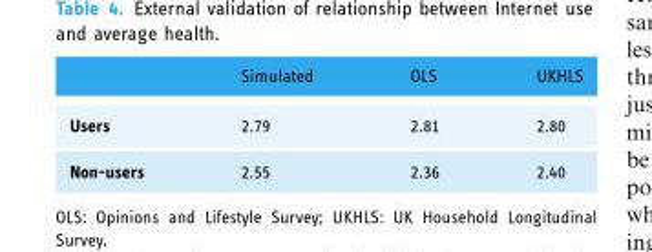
<table><thead><tr><td></td><td>Simulated</td><td>OLS</td><td>UKHLS</td></tr></thead><tbody><tr><td>Users</td><td>2.79</td><td>2.81</td><td>2.80</td></tr><tr><td>Non-users</td><td>2.55</td><td>2.36</td><td>2.40</td></tr></tbody></table>